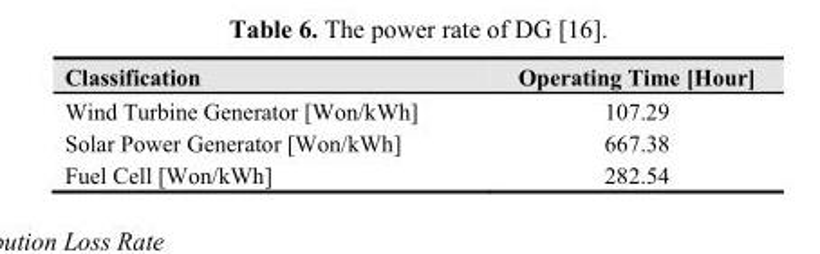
<table><thead><tr><td>Classification</td><td>Operating Time [Hour]</td></tr></thead><tbody><tr><td>Wind Turbine Generator [Won/kWh]</td><td>107.29</td></tr><tr><td>Solar Power Generator [Won/kWh]</td><td>667.38</td></tr><tr><td>Fuel Cell [Won/kWh]</td><td>282.54</td></tr></tbody></table>